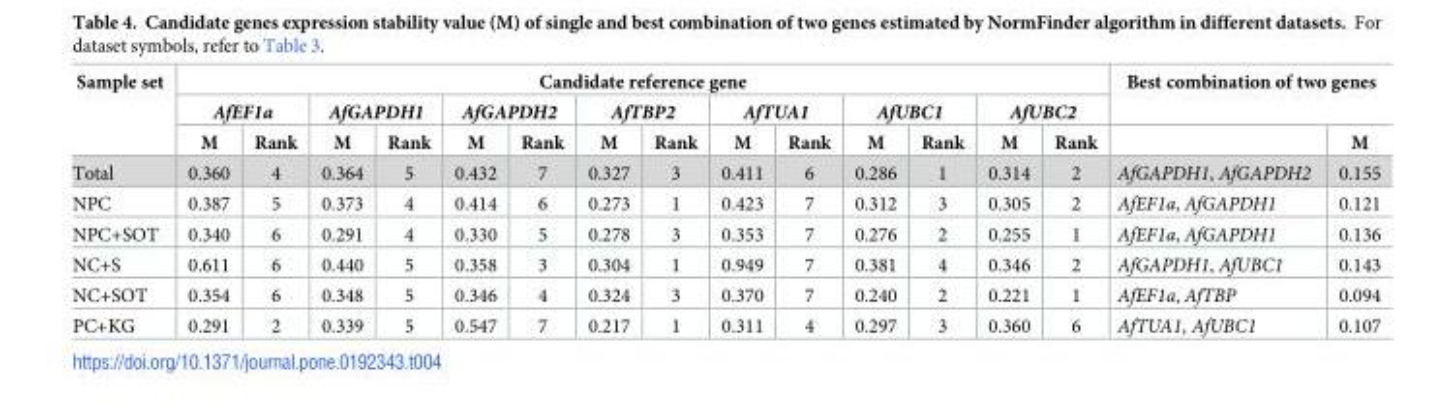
<table><thead><tr><td rowspan="3">Sample set</td><td colspan="14">Candidate reference gene</td><td rowspan="2" colspan="2">Best combination of two genes</td></tr><tr><td colspan="2">AfEF1a</td><td colspan="2">AfGAPDH1</td><td colspan="2">AfGAPDH2</td><td colspan="2">AfTBP2</td><td colspan="2">AfTUA1</td><td colspan="2">AfUBC1</td><td colspan="2">AfUBC2</td></tr><tr><td>M</td><td>Rank</td><td>M</td><td>Rank</td><td>M</td><td>Rank</td><td>M</td><td>Rank</td><td>M</td><td>Rank</td><td>M</td><td>Rank</td><td>M</td><td>Rank</td><td></td><td>M</td></tr></thead><tbody><tr><td>Total</td><td>0.360</td><td>4</td><td>0.364</td><td>5</td><td>0.432</td><td>7</td><td>0.327</td><td>3</td><td>0.411</td><td>6</td><td>0.286</td><td>1</td><td>0.314</td><td>2</td><td>AfGAPDH1, AfGAPDH2</td><td>0.155</td></tr><tr><td>NPC</td><td>0.387</td><td>5</td><td>0.373</td><td>4</td><td>0.414</td><td>6</td><td>0.273</td><td>1</td><td>0.423</td><td>7</td><td>0.312</td><td>3</td><td>0.305</td><td>2</td><td>AfEF1a, AfGAPDH1</td><td>0.121</td></tr><tr><td>NPC+SOT</td><td>0.340</td><td>6</td><td>0.291</td><td>4</td><td>0.330</td><td>5</td><td>0.278</td><td>3</td><td>0.353</td><td>7</td><td>0.276</td><td>2</td><td>0.255</td><td>1</td><td>AfEF1a, AfGAPDH1</td><td>0.136</td></tr><tr><td>NC+S</td><td>0.611</td><td>6</td><td>0.440</td><td>5</td><td>0.358</td><td>3</td><td>0.304</td><td>1</td><td>0.949</td><td>7</td><td>0.381</td><td>4</td><td>0.346</td><td>2</td><td>AfGAPDH1, AfUBC1</td><td>0.143</td></tr><tr><td>NC+SOT</td><td>0.354</td><td>6</td><td>0.348</td><td>5</td><td>0.346</td><td>4</td><td>0.324</td><td>3</td><td>0.370</td><td>7</td><td>0.240</td><td>2</td><td>0.221</td><td>1</td><td>AfEF1a, AfTBP</td><td>0.094</td></tr><tr><td>PC+KG</td><td>0.291</td><td>2</td><td>0.339</td><td>5</td><td>0.547</td><td>7</td><td>0.217</td><td>1</td><td>0.311</td><td>4</td><td>0.297</td><td>3</td><td>0.360</td><td>6</td><td>AfTUA1, AfUBC1</td><td>0.107</td></tr></tbody></table>